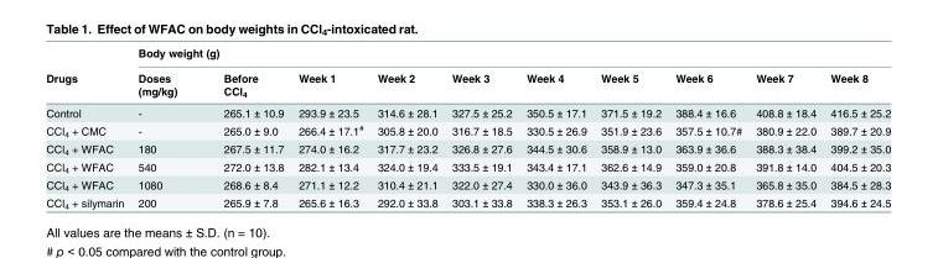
<table><thead><tr><td rowspan="2">Drugs</td><td colspan="10">Body weight (g)</td></tr><tr><td>Doses (mg/kg)</td><td>Before CCl<sub>4</sub></td><td>Week 1</td><td>Week 2</td><td>Week 3</td><td>Week 4</td><td>Week 5</td><td>Week 6</td><td>Week 7</td><td>Week 8</td></tr></thead><tbody><tr><td>Control</td><td>-</td><td>265.1 ± 10.9</td><td>293.9 ± 23.5</td><td>314.6 ± 28.1</td><td>327.5 ± 25.2</td><td>350.5 ± 17.1</td><td>371.5 ± 19.2</td><td>388.4 ± 16.6</td><td>408.8 ± 18.4</td><td>416.5 ± 25.2</td></tr><tr><td>CCl<sub>4</sub> + CMC</td><td>-</td><td>265.0 ± 9.0</td><td>266.4 ± 17.1<sup>#</sup></td><td>305.8 ± 20.0</td><td>316.7 ± 18.5</td><td>330.5 ± 26.9</td><td>351.9 ± 23.6</td><td>357.5 ± 10.7#</td><td>380.9 ± 22.0</td><td>389.7 ± 20.9</td></tr><tr><td>CCl<sub>4</sub> + WFAC</td><td>180</td><td>267.5 ± 11.7</td><td>274.0 ± 16.2</td><td>317.7 ± 23.2</td><td>326.8 ± 27.6</td><td>344.5 ± 30.6</td><td>358.9 ± 13.0</td><td>363.9 ± 36.6</td><td>388.3 ± 38.4</td><td>399.2 ± 35.0</td></tr><tr><td>CCl<sub>4</sub> + WFAC</td><td>540</td><td>272.0 ± 13.8</td><td>282.1 ± 13.4</td><td>324.0 ± 19.4</td><td>333.5 ± 19.1</td><td>343.4 ± 17.1</td><td>362.6 ± 14.9</td><td>359.0 ± 20.8</td><td>391.8 ± 14.0</td><td>404.5 ± 20.3</td></tr><tr><td>CCl<sub>4</sub> + WFAC</td><td>1080</td><td>268.6 ± 8.4</td><td>271.1 ± 12.2</td><td>310.4 ± 21.1</td><td>322.0 ± 27.4</td><td>330.0 ± 36.0</td><td>343.9 ± 36.3</td><td>347.3 ± 35.1</td><td>365.8 ± 35.0</td><td>384.5 ± 28.3</td></tr><tr><td>CCl<sub>4</sub> + silymarin</td><td>200</td><td>265.9 ± 7.8</td><td>265.6 ± 16.3</td><td>292.0 ± 33.8</td><td>303.1 ± 33.8</td><td>338.3 ± 26.3</td><td>353.1 ± 26.0</td><td>359.4 ± 24.8</td><td>378.6 ± 25.4</td><td>394.6 ± 24.5</td></tr></tbody></table>